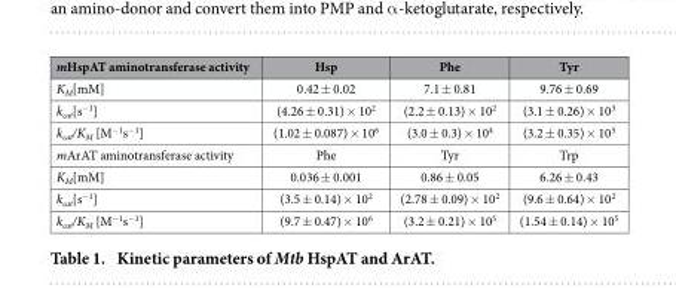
<table><thead><tr><td>mHspAT aminotransferase activity</td><td>Hsp</td><td>Phe</td><td>Tyr</td></tr></thead><tbody><tr><td>K<sub>M</sub>[mM]</td><td>0.42 ± 0.02</td><td>7.1 ± 0.81</td><td>9.76 ± 0.69</td></tr><tr><td>k<sub>cat</sub>[s<sup>−1</sup>]</td><td>(4.26 ± 0.31) × 10<sup>2</sup></td><td>(2.2 ± 0.13) × 10<sup>2</sup></td><td>(3.1 ± 0.26) × 10<sup>3</sup></td></tr><tr><td>k<sub>cat</sub>/K<sub>M</sub> [M<sup>−1</sup>s<sup>−1</sup>]</td><td>(1.02 ± 0.087) × 10<sup>6</sup></td><td>(3.0 ± 0.3) × 10<sup>4</sup></td><td>(3.2 ± 0.35) × 10<sup>5</sup></td></tr><tr><td>mArAT aminotransferase activity</td><td>Phe</td><td>Tyr</td><td>Trp</td></tr><tr><td>K<sub>M</sub>[mM]</td><td>0.036 ± 0.001</td><td>0.86 ± 0.05</td><td>6.26 ± 0.43</td></tr><tr><td>k<sub>cat</sub>[s<sup>−1</sup>]</td><td>(3.5 ± 0.14) × 10<sup>2</sup></td><td>(2.78 ± 0.09) × 10<sup>2</sup></td><td>(9.6 ± 0.64) × 10<sup>2</sup></td></tr><tr><td>k<sub>cat</sub>/K<sub>M</sub> [M<sup>−1</sup>s<sup>−1</sup>]</td><td>(9.7 ± 0.47) × 10<sup>6</sup></td><td>(3.2 ± 0.21) × 10<sup>5</sup></td><td>(1.54 ± 0.14) × 10<sup>5</sup></td></tr></tbody></table>